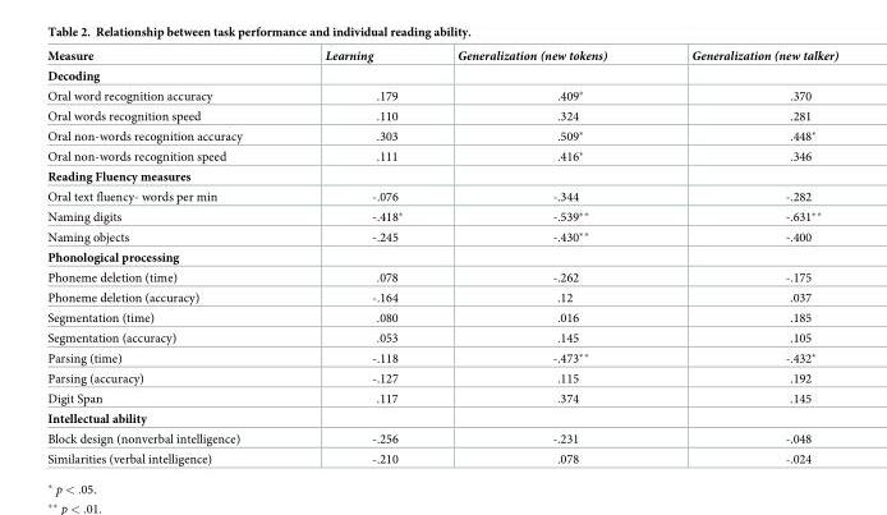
<table><thead><tr><td>Measure</td><td>Learning</td><td>Generalization (new tokens)</td><td>Generalization (new talker)</td></tr></thead><tbody><tr><td colspan="4">Decoding</td></tr><tr><td>Oral word recognition accuracy</td><td>.179</td><td>.409*</td><td>.370</td></tr><tr><td>Oral words recognition speed</td><td>.110</td><td>.324</td><td>.281</td></tr><tr><td>Oral non-words recognition accuracy</td><td>.303</td><td>.509*</td><td>.448*</td></tr><tr><td>Oral non-words recognition speed</td><td>.111</td><td>.416*</td><td>.346</td></tr><tr><td colspan="4">Reading Fluency measures</td></tr><tr><td>Oral text fluency- words per min</td><td>-.076</td><td>-.344</td><td>-.282</td></tr><tr><td>Naming digits</td><td>-.418*</td><td>-.539**</td><td>-.631**</td></tr><tr><td>Naming objects</td><td>-.245</td><td>-.430**</td><td>-.400</td></tr><tr><td colspan="4">Phonological processing</td></tr><tr><td>Phoneme deletion (time)</td><td>.078</td><td>-.262</td><td>-.175</td></tr><tr><td>Phoneme deletion (accuracy)</td><td>-.164</td><td>.12</td><td>.037</td></tr><tr><td>Segmentation (time)</td><td>.080</td><td>.016</td><td>.185</td></tr><tr><td>Segmentation (accuracy)</td><td>.053</td><td>.145</td><td>.105</td></tr><tr><td>Parsing (time)</td><td>-.118</td><td>-.473**</td><td>-.432*</td></tr><tr><td>Parsing (accuracy)</td><td>-.127</td><td>.115</td><td>.192</td></tr><tr><td>Digit Span</td><td>.117</td><td>.374</td><td>.145</td></tr><tr><td colspan="4">Intellectual ability</td></tr><tr><td>Block design (nonverbal intelligence)</td><td>-.256</td><td>-.231</td><td>-.048</td></tr><tr><td>Similarities (verbal intelligence)</td><td>-.210</td><td>.078</td><td>-.024</td></tr></tbody></table>